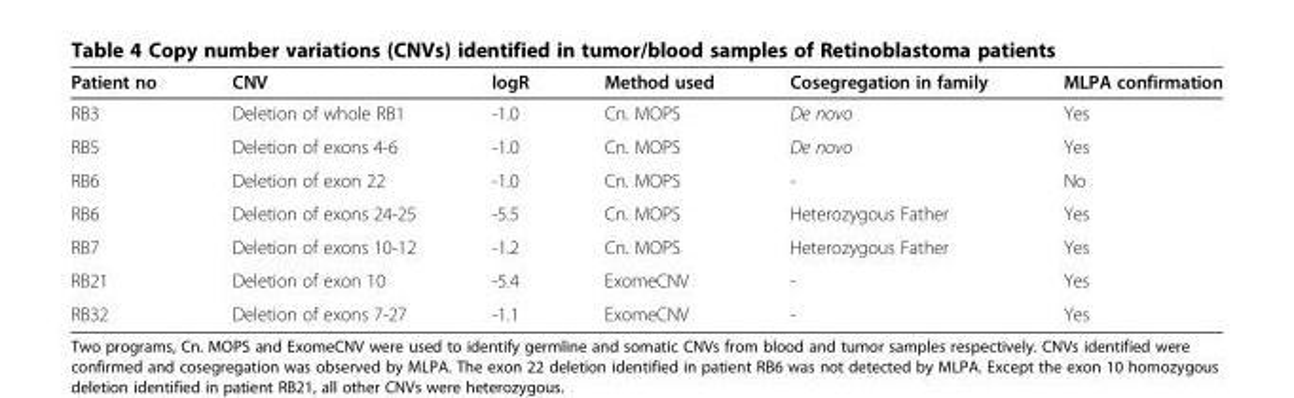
<table><thead><tr><td>Patient no</td><td>CNV</td><td>logR</td><td>Method used</td><td>Cosegregation in family</td><td>MLPA confirmation</td></tr></thead><tbody><tr><td>RB3</td><td>Deletion of whole RB1</td><td>-1.0</td><td>Cn. MOPS</td><td>De novo</td><td>Yes</td></tr><tr><td>RB5</td><td>Deletion of exons 4-6</td><td>-1.0</td><td>Cn. MOPS</td><td>De novo</td><td>Yes</td></tr><tr><td>RB6</td><td>Deletion of exon 22</td><td>-1.0</td><td>Cn. MOPS</td><td>-</td><td>No</td></tr><tr><td>RB6</td><td>Deletion of exons 24-25</td><td>-5.5</td><td>Cn. MOPS</td><td>Heterozygous Father</td><td>Yes</td></tr><tr><td>RB7</td><td>Deletion of exons 10-12</td><td>-1.2</td><td>Cn. MOPS</td><td>Heterozygous Father</td><td>Yes</td></tr><tr><td>RB21</td><td>Deletion of exon 10</td><td>-5.4</td><td>ExomeCNV</td><td>-</td><td>Yes</td></tr><tr><td>RB32</td><td>Deletion of exons 7-27</td><td>-1.1</td><td>ExomeCNV</td><td>-</td><td>Yes</td></tr></tbody></table>